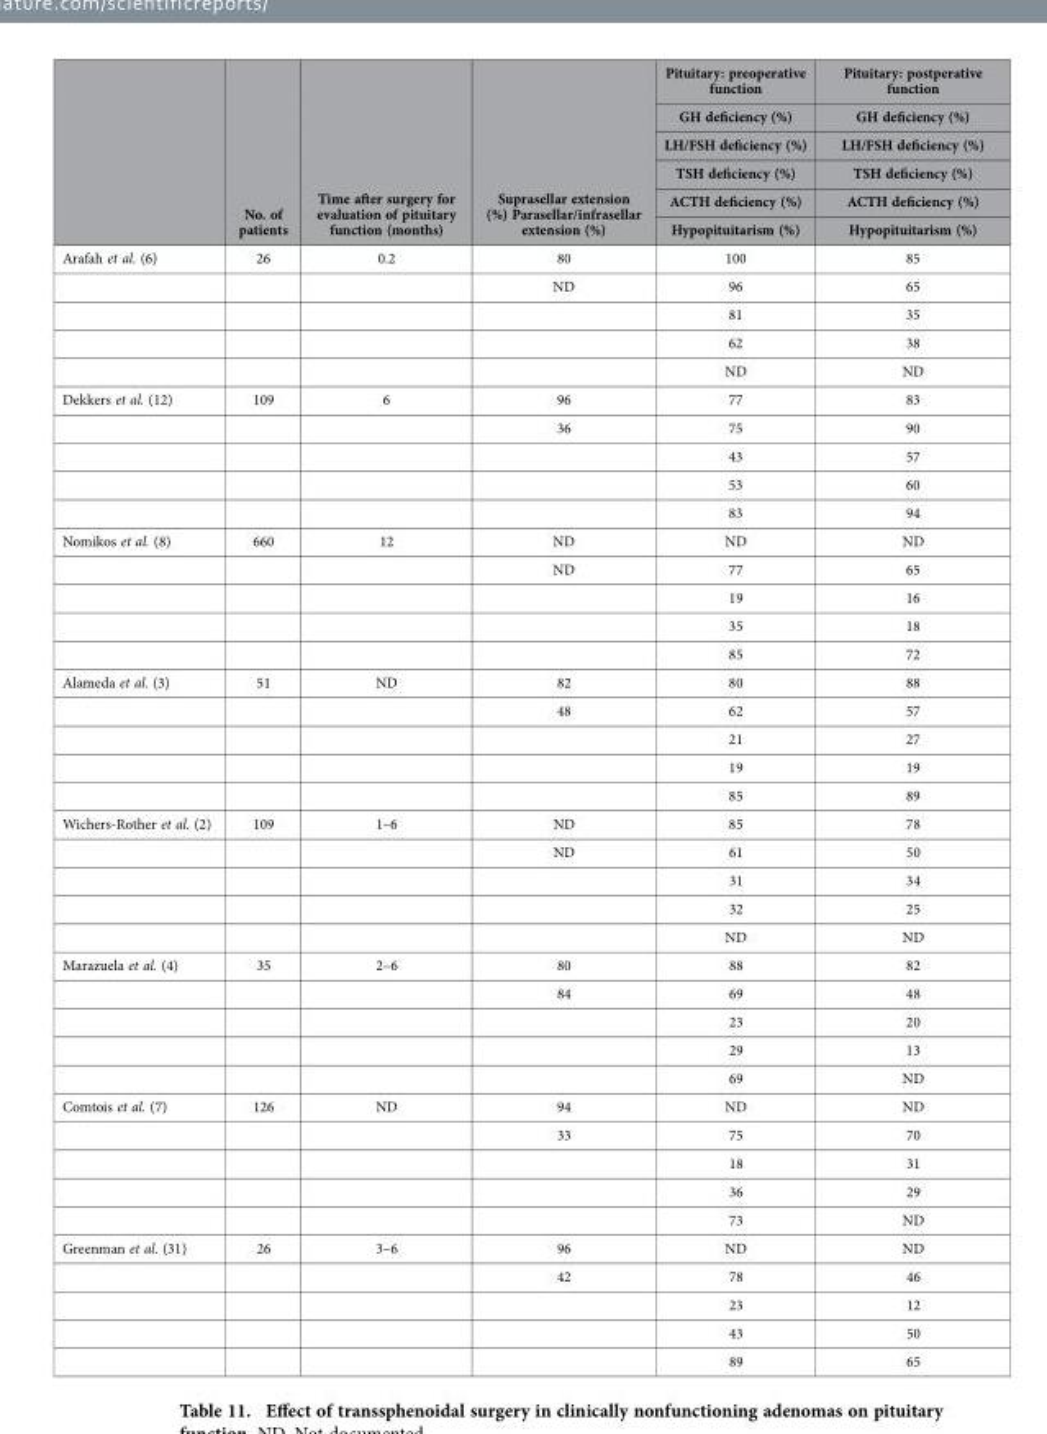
<table><thead><tr><td rowspan="6"></td><td rowspan="6">No. of patients</td><td rowspan="6">Time after surgery for evaluation of pituitary function (months)</td><td rowspan="6">Suprasellar extension (%) Parasellar/infrasellar extension (%)</td><td rowspan="6">Pituitary: preoperative function GH deficiency (%) LH/FSH deficiency (%) TSH deficiency (%) ACTH deficiency (%) Hypopituitarism (%)</td><td rowspan="6">Pituitary: postperative function GH deficiency (%) LH/FSH deficiency (%) TSH deficiency (%) ACTH deficiency (%) Hypopituitarism (%)</td></tr><tr></tr><tr></tr><tr></tr><tr></tr><tr></tr></thead><tbody><tr><td rowspan="5">Arafah et al. (6)</td><td>26</td><td>0.2</td><td>80</td><td>100</td><td>85</td></tr><tr><td></td><td></td><td>ND</td><td>96</td><td>65</td></tr><tr><td></td><td></td><td></td><td>81</td><td>35</td></tr><tr><td></td><td></td><td></td><td>62</td><td>38</td></tr><tr><td></td><td></td><td></td><td>ND</td><td>ND</td></tr><tr><td rowspan="5">Dekkers et al. (12)</td><td>109</td><td>6</td><td>96</td><td>77</td><td>83</td></tr><tr><td></td><td></td><td>36</td><td>75</td><td>90</td></tr><tr><td></td><td></td><td></td><td>43</td><td>57</td></tr><tr><td></td><td></td><td></td><td>53</td><td>60</td></tr><tr><td></td><td></td><td></td><td>83</td><td>94</td></tr><tr><td rowspan="5">Nomikos et al. (8)</td><td>660</td><td>12</td><td>ND</td><td>ND</td><td>ND</td></tr><tr><td></td><td></td><td>ND</td><td>77</td><td>65</td></tr><tr><td></td><td></td><td></td><td>19</td><td>16</td></tr><tr><td></td><td></td><td></td><td>35</td><td>18</td></tr><tr><td></td><td></td><td></td><td>85</td><td>72</td></tr><tr><td rowspan="5">Alameda et al. (3)</td><td>51</td><td>ND</td><td>82</td><td>80</td><td>88</td></tr><tr><td></td><td></td><td>48</td><td>62</td><td>57</td></tr><tr><td></td><td></td><td></td><td>21</td><td>27</td></tr><tr><td></td><td></td><td></td><td>19</td><td>19</td></tr><tr><td></td><td></td><td></td><td>85</td><td>89</td></tr><tr><td rowspan="5">Wichers-Rother et al. (2)</td><td>109</td><td>1–6</td><td>ND</td><td>85</td><td>78</td></tr><tr><td></td><td></td><td>ND</td><td>61</td><td>50</td></tr><tr><td></td><td></td><td></td><td>31</td><td>34</td></tr><tr><td></td><td></td><td></td><td>32</td><td>25</td></tr><tr><td></td><td></td><td></td><td>ND</td><td>ND</td></tr><tr><td rowspan="5">Marazuela et al. (4)</td><td>35</td><td>2–6</td><td>80</td><td>88</td><td>82</td></tr><tr><td></td><td></td><td>84</td><td>69</td><td>48</td></tr><tr><td></td><td></td><td></td><td>23</td><td>20</td></tr><tr><td></td><td></td><td></td><td>29</td><td>13</td></tr><tr><td></td><td></td><td></td><td>69</td><td>ND</td></tr><tr><td rowspan="5">Comtois et al. (7)</td><td>126</td><td>ND</td><td>94</td><td>ND</td><td>ND</td></tr><tr><td></td><td></td><td>33</td><td>75</td><td>70</td></tr><tr><td></td><td></td><td></td><td>18</td><td>31</td></tr><tr><td></td><td></td><td></td><td>36</td><td>29</td></tr><tr><td></td><td></td><td></td><td>73</td><td>ND</td></tr><tr><td rowspan="5">Greenman et al. (31)</td><td>26</td><td>3–6</td><td>96</td><td>ND</td><td>ND</td></tr><tr><td></td><td></td><td>42</td><td>78</td><td>46</td></tr><tr><td></td><td></td><td></td><td>23</td><td>12</td></tr><tr><td></td><td></td><td></td><td>43</td><td>50</td></tr><tr><td></td><td></td><td></td><td>89</td><td>65</td></tr></tbody></table>